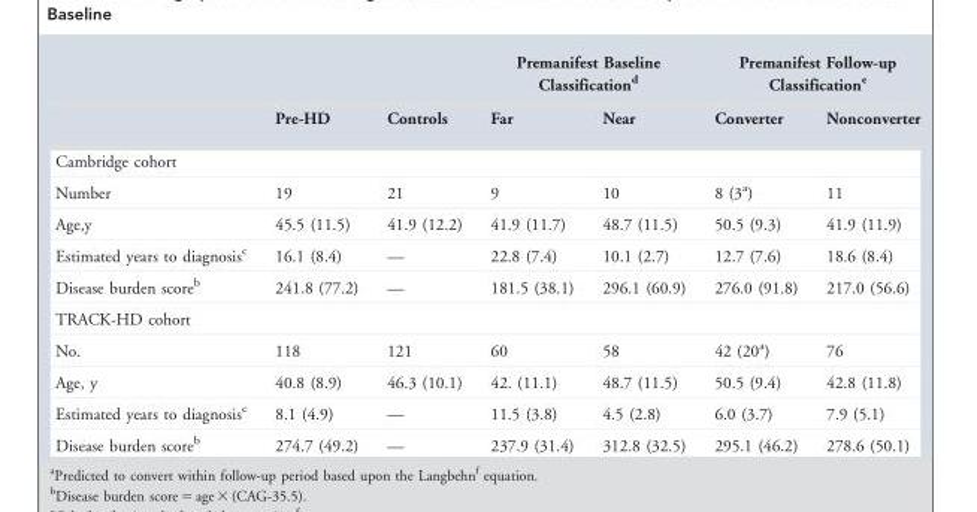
<table><thead><tr><td rowspan="2"></td><td rowspan="2">Pre-HD</td><td rowspan="2">Controls</td><td colspan="2">Premanifest Baseline Classification<sup>d</sup></td><td colspan="2">Premanifest Follow-up Classification<sup>e</sup></td></tr><tr><td>Far</td><td>Near</td><td>Converter</td><td>Nonconverter</td></tr></thead><tbody><tr><td colspan="7">Cambridge cohort</td></tr><tr><td>Number</td><td>19</td><td>21</td><td>9</td><td>10</td><td>8 (3<sup>a</sup>)</td><td>11</td></tr><tr><td>Age,y</td><td>45.5 (11.5)</td><td>41.9 (12.2)</td><td>41.9 (11.7)</td><td>48.7 (11.5)</td><td>50.5 (9.3)</td><td>41.9 (11.9)</td></tr><tr><td>Estimated years to diagnosis<sup>c</sup></td><td>16.1 (8.4)</td><td>—</td><td>22.8 (7.4)</td><td>10.1 (2.7)</td><td>12.7 (7.6)</td><td>18.6 (8.4)</td></tr><tr><td>Disease burden score<sup>b</sup></td><td>241.8 (77.2)</td><td>—</td><td>181.5 (38.1)</td><td>296.1 (60.9)</td><td>276.0 (91.8)</td><td>217.0 (56.6)</td></tr><tr><td colspan="7">TRACK-HD cohort</td></tr><tr><td>No.</td><td>118</td><td>121</td><td>60</td><td>58</td><td>42 (20<sup>a</sup>)</td><td>76</td></tr><tr><td>Age, y</td><td>40.8 (8.9)</td><td>46.3 (10.1)</td><td>42. (11.1)</td><td>48.7 (11.5)</td><td>50.5 (9.4)</td><td>42.8 (11.8)</td></tr><tr><td>Estimated years to diagnosis<sup>c</sup></td><td>8.1 (4.9)</td><td>—</td><td>11.5 (3.8)</td><td>4.5 (2.8)</td><td>6.0 (3.7)</td><td>7.9 (5.1)</td></tr><tr><td>Disease burden score<sup>b</sup></td><td>274.7 (49.2)</td><td>—</td><td>237.9 (31.4)</td><td>312.8 (32.5)</td><td>295.1 (46.2)</td><td>278.6 (50.1)</td></tr></tbody></table>